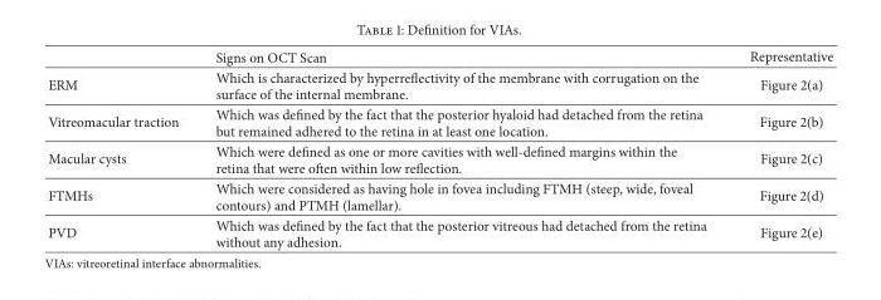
<table><thead><tr><td></td><td>Signs on OCT Scan</td><td>Representative</td></tr></thead><tbody><tr><td>ERM</td><td>Which is characterized by hyperreflectivity of the membrane with corrugation on the surface of the internal membrane.</td><td>Figure 2(a)</td></tr><tr><td>Vitreomacular traction</td><td>Which was defined by the fact that the posterior hyaloid had detached from the retina but remained adhered to the retina in at least one location.</td><td>Figure 2(b)</td></tr><tr><td>Macular cysts</td><td>Which were defined as one or more cavities with well-defined margins within the retina that were often within low reflection.</td><td>Figure 2(c)</td></tr><tr><td>FTMHs</td><td>Which were considered as having hole in fovea including FTMH (steep, wide, foveal contours) and PTMH (lamellar).</td><td>Figure 2(d)</td></tr><tr><td>PVD</td><td>Which was defined by the fact that the posterior vitreous had detached from the retina without any adhesion.</td><td>Figure 2(e)</td></tr></tbody></table>